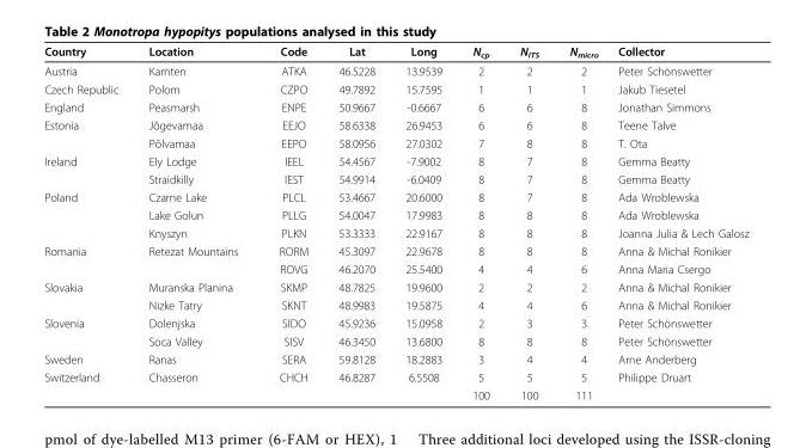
<table><thead><tr><td>Country</td><td>Location</td><td>Code</td><td>Lat</td><td>Long</td><td>N<sub>cp</sub></td><td>N<sub>ITS</sub></td><td>N<sub>micro</sub></td><td>Collector</td></tr></thead><tbody><tr><td>Austria</td><td>Karnten</td><td>ATKA</td><td>46.5228</td><td>13.9539</td><td>2</td><td>2</td><td>2</td><td>Peter Schönswetter</td></tr><tr><td>Czech Republic</td><td>Polom</td><td>CZPO</td><td>49.7892</td><td>15.7595</td><td>1</td><td>1</td><td>1</td><td>Jakub Tiesetel</td></tr><tr><td>England</td><td>Peasmarsh</td><td>ENPE</td><td>50.9667</td><td>-0.6667</td><td>6</td><td>6</td><td>8</td><td>Jonathan Simmons</td></tr><tr><td rowspan="2">Estonia</td><td>Jõgevamaa</td><td>EEJO</td><td>58.6338</td><td>26.9453</td><td>6</td><td>6</td><td>8</td><td>Teene Talve</td></tr><tr><td>Põlvamaa</td><td>EEPO</td><td>58.0956</td><td>27.0302</td><td>7</td><td>8</td><td>8</td><td>T. Ota</td></tr><tr><td rowspan="2">Ireland</td><td>Ely Lodge</td><td>IEEL</td><td>54.4567</td><td>-7.9002</td><td>8</td><td>7</td><td>8</td><td>Gemma Beatty</td></tr><tr><td>Straidkilly</td><td>IEST</td><td>54.9914</td><td>-6.0409</td><td>8</td><td>7</td><td>8</td><td>Gemma Beatty</td></tr><tr><td rowspan="3">Poland</td><td>Czarne Lake</td><td>PLCL</td><td>53.4667</td><td>20.6000</td><td>8</td><td>7</td><td>8</td><td>Ada Wroblewska</td></tr><tr><td>Lake Golun</td><td>PLLG</td><td>54.0047</td><td>17.9983</td><td>8</td><td>8</td><td>8</td><td>Ada Wroblewska</td></tr><tr><td>Knyszyn</td><td>PLKN</td><td>53.3333</td><td>22.9167</td><td>8</td><td>8</td><td>8</td><td>Joanna Julia &amp; Lech Galosz</td></tr><tr><td rowspan="2">Romania</td><td>Retezat Mountains</td><td>RORM</td><td>45.3097</td><td>22.9678</td><td>8</td><td>8</td><td>8</td><td>Anna &amp; Michal Ronikier</td></tr><tr><td></td><td>ROVG</td><td>46.2070</td><td>25.5400</td><td>4</td><td>4</td><td>6</td><td>Anna Maria Csergo</td></tr><tr><td rowspan="2">Slovakia</td><td>Muranska Planina</td><td>SKMP</td><td>48.7825</td><td>19.9600</td><td>2</td><td>2</td><td>2</td><td>Anna &amp; Michal Ronikier</td></tr><tr><td>Nizke Tatry</td><td>SKNT</td><td>48.9983</td><td>19.5875</td><td>4</td><td>4</td><td>6</td><td>Anna &amp; Michal Ronikier</td></tr><tr><td rowspan="2">Slovenia</td><td>Dolenjska</td><td>SIDO</td><td>45.9236</td><td>15.0958</td><td>2</td><td>3</td><td>3</td><td>Peter Schönswetter</td></tr><tr><td>Soca Valley</td><td>SISV</td><td>46.3450</td><td>13.6800</td><td>8</td><td>8</td><td>8</td><td>Peter Schönswetter</td></tr><tr><td>Sweden</td><td>Ranas</td><td>SERA</td><td>59.8128</td><td>18.2883</td><td>3</td><td>4</td><td>4</td><td>Arne Anderberg</td></tr><tr><td rowspan="2">Switzerland</td><td>Chasseron</td><td>CHCH</td><td>46.8287</td><td>6.5508</td><td>5</td><td>5</td><td>5</td><td>Philippe Druart</td></tr><tr><td></td><td></td><td></td><td></td><td>100</td><td>100</td><td>111</td><td></td></tr></tbody></table>